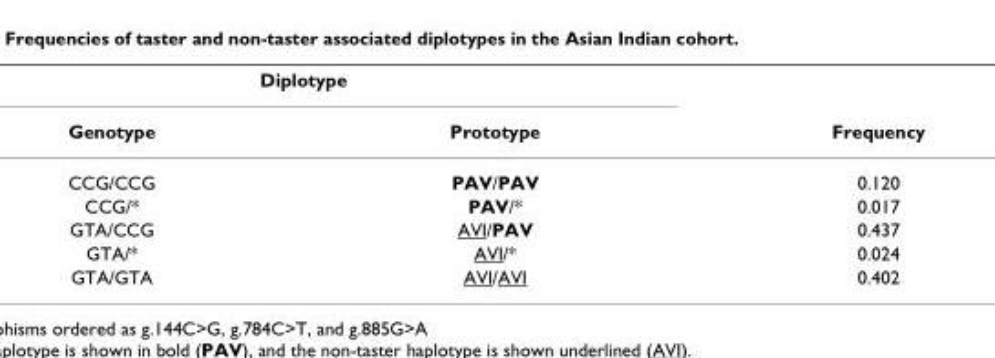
<table><thead><tr><td colspan="2">Diplotype</td><td rowspan="2">Frequency</td></tr><tr><td>Genotype</td><td>Prototype</td></tr></thead><tbody><tr><td>CCG/CCG</td><td>PAV/PAV</td><td>0.120</td></tr><tr><td>CCG/*</td><td>PAV/*</td><td>0.017</td></tr><tr><td>GTA/CCG</td><td>AVI/PAV</td><td>0.437</td></tr><tr><td>GTA/*</td><td>AVI/*</td><td>0.024</td></tr><tr><td>GTA/GTA</td><td>AVI/AVI</td><td>0.402</td></tr></tbody></table>